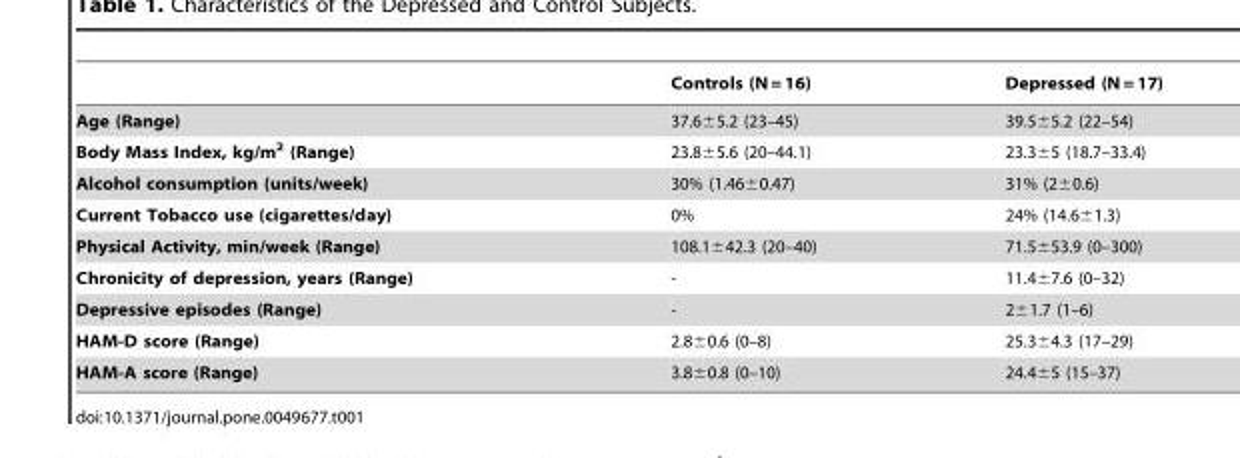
<table><thead><tr><td></td><td>Controls (N = 16)</td><td>Depressed (N = 17)</td></tr></thead><tbody><tr><td>Age (Range)</td><td>37.6±5.2 (23–45)</td><td>39.5±5.2 (22–54)</td></tr><tr><td>Body Mass Index, kg/m<sup>2</sup> (Range)</td><td>23.8±5.6 (20–44.1)</td><td>23.3±5 (18.7–33.4)</td></tr><tr><td>Alcohol consumption (units/week)</td><td>30% (1.46±0.47)</td><td>31% (2±0.6)</td></tr><tr><td>Current Tobacco use (cigarettes/day)</td><td>0%</td><td>24% (14.6±1.3)</td></tr><tr><td>Physical Activity, min/week (Range)</td><td>108.1±42.3 (20–40)</td><td>71.5±53.9 (0–300)</td></tr><tr><td>Chronicity of depression, years (Range)</td><td>-</td><td>11.4±7.6 (0–32)</td></tr><tr><td>Depressive episodes (Range)</td><td>-</td><td>2±1.7 (1–6)</td></tr><tr><td>HAM-D score (Range)</td><td>2.8±0.6 (0–8)</td><td>25.3±4.3 (17–29)</td></tr><tr><td>HAM-A score (Range)</td><td>3.8±0.8 (0–10)</td><td>24.4±5 (15–37)</td></tr></tbody></table>